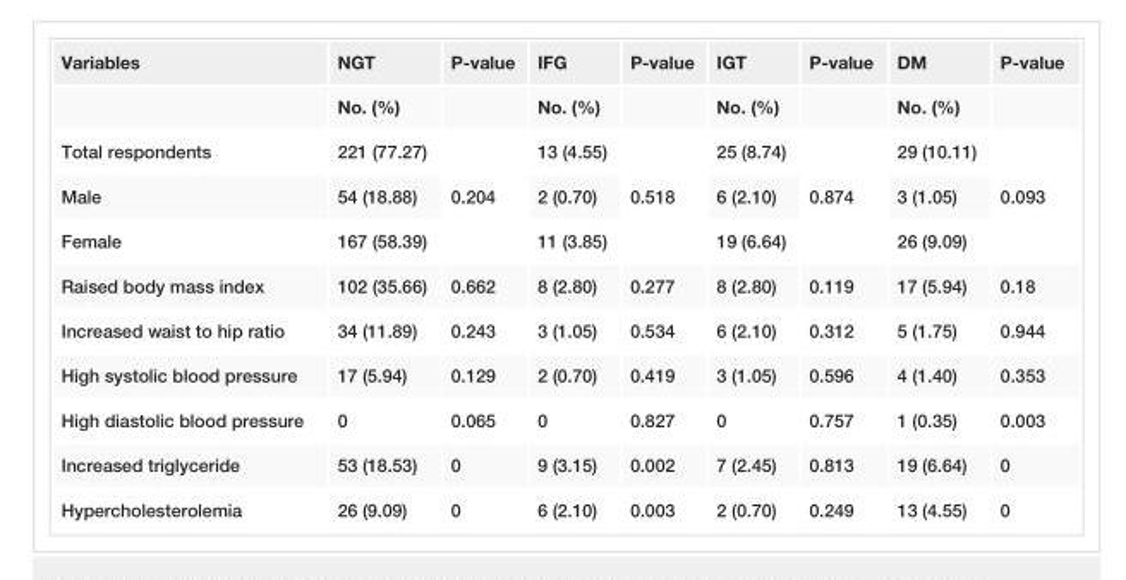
<table><tbody><tr><td rowspan="2">Variables</td><td>NGT</td><td>P-value</td><td>IFG</td><td>P-value</td><td>IGT</td><td>P-value</td><td>DM</td><td>P-value</td></tr><tr><td>No. (%)</td><td></td><td>No. (%)</td><td></td><td>No. (%)</td><td></td><td>No. (%)</td><td></td></tr><tr><td>Total respondents</td><td>221 (77.27)</td><td rowspan="3">0.204</td><td>13 (4.55)</td><td rowspan="3">0.518</td><td>25 (8.74)</td><td rowspan="3">0.874</td><td>29 (10.11)</td><td rowspan="3">0.093</td></tr><tr><td>Male</td><td>54 (18.88)</td><td>2 (0.70)</td><td>6 (2.10)</td><td>3 (1.05)</td></tr><tr><td>Female</td><td>167 (58.39)</td><td>11 (3.85)</td><td>19 (6.64)</td><td>26 (9.09)</td></tr><tr><td>Raised body mass index</td><td>102 (35.66)</td><td>0.662</td><td>8 (2.80)</td><td>0.277</td><td>8 (2.80)</td><td>0.119</td><td>17 (5.94)</td><td>0.18</td></tr><tr><td>Increased waist to hip ratio</td><td>34 (11.89)</td><td>0.243</td><td>3 (1.05)</td><td>0.534</td><td>6 (2.10)</td><td>0.312</td><td>5 (1.75)</td><td>0.944</td></tr><tr><td>High systolic blood pressure</td><td>17 (5.94)</td><td>0.129</td><td>2 (0.70)</td><td>0.419</td><td>3 (1.05)</td><td>0.596</td><td>4 (1.40)</td><td>0.353</td></tr><tr><td>High diastolic blood pressure</td><td>0</td><td>0.065</td><td>0</td><td>0.827</td><td>0</td><td>0.757</td><td>1 (0.35)</td><td>0.003</td></tr><tr><td>Increased triglyceride</td><td>53 (18.53)</td><td>0</td><td>9 (3.15)</td><td>0.002</td><td>7 (2.45)</td><td>0.813</td><td>19 (6.64)</td><td>0</td></tr><tr><td>Hypercholesterolemia</td><td>26 (9.09)</td><td>0</td><td>6 (2.10)</td><td>0.003</td><td>2 (0.70)</td><td>0.249</td><td>13 (4.55)</td><td>0</td></tr></tbody></table>